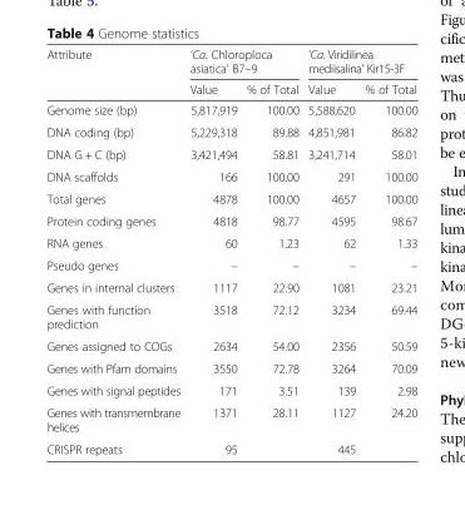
<table><thead><tr><td rowspan="2">Attribute</td><td colspan="2">‘Ca. Chloroploca asiatica’ B7–9</td><td colspan="2">‘Ca. Viridilinea mediisalina’ Kir15-3F</td></tr><tr><td>Value</td><td>% of Total</td><td>Value</td><td>% of Total</td></tr></thead><tbody><tr><td>Genome size (bp)</td><td>5,817,919</td><td>100.00</td><td>5,588,620</td><td>100.00</td></tr><tr><td>DNA coding (bp)</td><td>5,229,318</td><td>89.88</td><td>4,851,981</td><td>86.82</td></tr><tr><td>DNA G + C (bp)</td><td>3,421,494</td><td>58.81</td><td>3,241,714</td><td>58.01</td></tr><tr><td>DNA scaffolds</td><td>166</td><td>100.00</td><td>291</td><td>100.00</td></tr><tr><td>Total genes</td><td>4878</td><td>100.00</td><td>4657</td><td>100.00</td></tr><tr><td>Protein coding genes</td><td>4818</td><td>98.77</td><td>4595</td><td>98.67</td></tr><tr><td>RNA genes</td><td>60</td><td>1.23</td><td>62</td><td>1.33</td></tr><tr><td>Pseudo genes</td><td>–</td><td>–</td><td>–</td><td>–</td></tr><tr><td>Genes in internal clusters</td><td>1117</td><td>22.90</td><td>1081</td><td>23.21</td></tr><tr><td>Genes with function prediction</td><td>3518</td><td>72.12</td><td>3234</td><td>69.44</td></tr><tr><td>Genes assigned to COGs</td><td>2634</td><td>54.00</td><td>2356</td><td>50.59</td></tr><tr><td>Genes with Pfam domains</td><td>3550</td><td>72.78</td><td>3264</td><td>70.09</td></tr><tr><td>Genes with signal peptides</td><td>171</td><td>3.51</td><td>139</td><td>2.98</td></tr><tr><td>Genes with transmembrane helices</td><td>1371</td><td>28.11</td><td>1127</td><td>24.20</td></tr><tr><td>CRISPR repeats</td><td>95</td><td></td><td>445</td><td></td></tr></tbody></table>